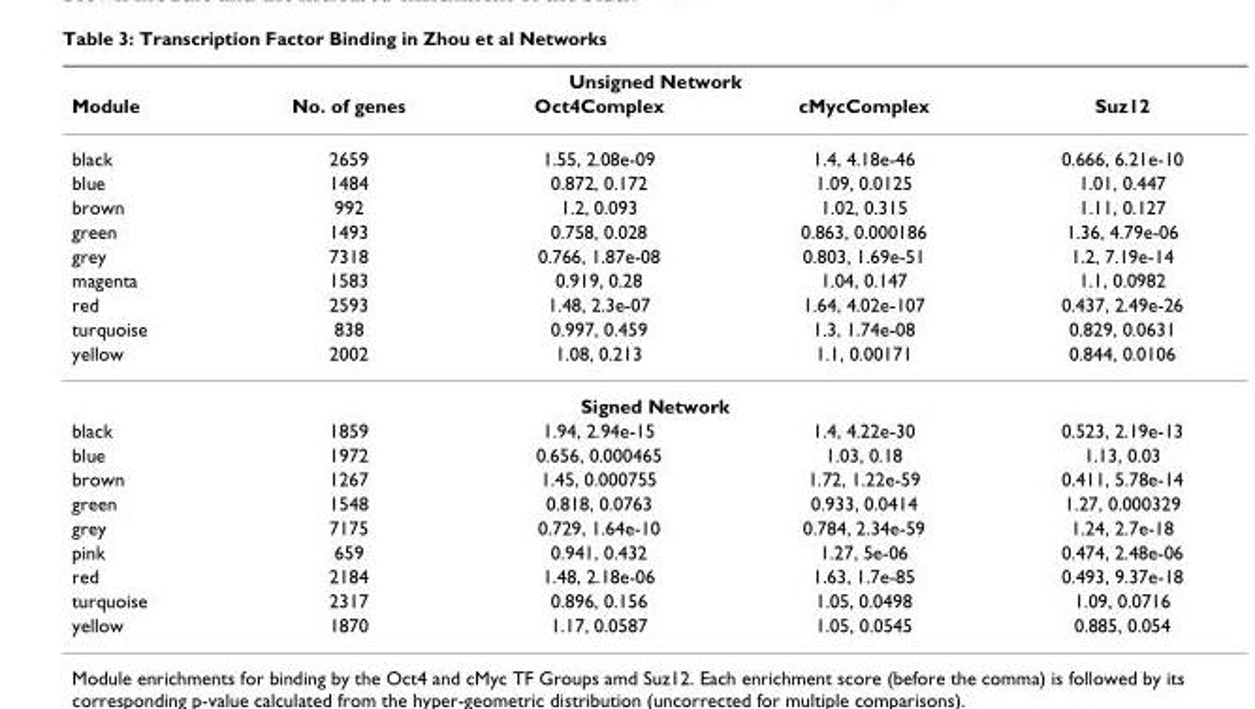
<table><thead><tr><td colspan="5">Unsigned Network</td></tr><tr><td>Module</td><td>No. of genes</td><td>Oct4Complex</td><td>cMycComplex</td><td>Suz12</td></tr></thead><tbody><tr><td>black</td><td>2659</td><td>1.55, 2.08e-09</td><td>1.4, 4.18e-46</td><td>0.666, 6.21e-10</td></tr><tr><td>blue</td><td>1484</td><td>0.872, 0.172</td><td>1.09, 0.0125</td><td>1.01, 0.447</td></tr><tr><td>brown</td><td>992</td><td>1.2, 0.093</td><td>1.02, 0.315</td><td>1.11, 0.127</td></tr><tr><td>green</td><td>1493</td><td>0.758, 0.028</td><td>0.863, 0.000186</td><td>1.36, 4.79e-06</td></tr><tr><td>grey</td><td>7318</td><td>0.766, 1.87e-08</td><td>0.803, 1.69e-51</td><td>1.2, 7.19e-14</td></tr><tr><td>magenta</td><td>1583</td><td>0.919, 0.28</td><td>1.04, 0.147</td><td>1.1, 0.0982</td></tr><tr><td>red</td><td>2593</td><td>1.48, 2.3e-07</td><td>1.64, 4.02e-107</td><td>0.437, 2.49e-26</td></tr><tr><td>turquoise</td><td>838</td><td>0.997, 0.459</td><td>1.3, 1.74e-08</td><td>0.829, 0.0631</td></tr><tr><td>yellow</td><td>2002</td><td>1.08, 0.213</td><td>1.1, 0.00171</td><td>0.844, 0.0106</td></tr><tr><td colspan="5">Signed Network</td></tr><tr><td>black</td><td>1859</td><td>1.94, 2.94e-15</td><td>1.4, 4.22e-30</td><td>0.523, 2.19e-13</td></tr><tr><td>blue</td><td>1972</td><td>0.656, 0.000465</td><td>1.03, 0.18</td><td>1.13, 0.03</td></tr><tr><td>brown</td><td>1267</td><td>1.45, 0.000755</td><td>1.72, 1.22e-59</td><td>0.411, 5.78e-14</td></tr><tr><td>green</td><td>1548</td><td>0.818, 0.0763</td><td>0.933, 0.0414</td><td>1.27, 0.000329</td></tr><tr><td>grey</td><td>7175</td><td>0.729, 1.64e-10</td><td>0.784, 2.34e-59</td><td>1.24, 2.7e-18</td></tr><tr><td>pink</td><td>659</td><td>0.941, 0.432</td><td>1.27, 5e-06</td><td>0.474, 2.48e-06</td></tr><tr><td>red</td><td>2184</td><td>1.48, 2.18e-06</td><td>1.63, 1.7e-85</td><td>0.493, 9.37e-18</td></tr><tr><td>turquoise</td><td>2317</td><td>0.896, 0.156</td><td>1.05, 0.0498</td><td>1.09, 0.0716</td></tr><tr><td>yellow</td><td>1870</td><td>1.17, 0.0587</td><td>1.05, 0.0545</td><td>0.885, 0.054</td></tr></tbody></table>